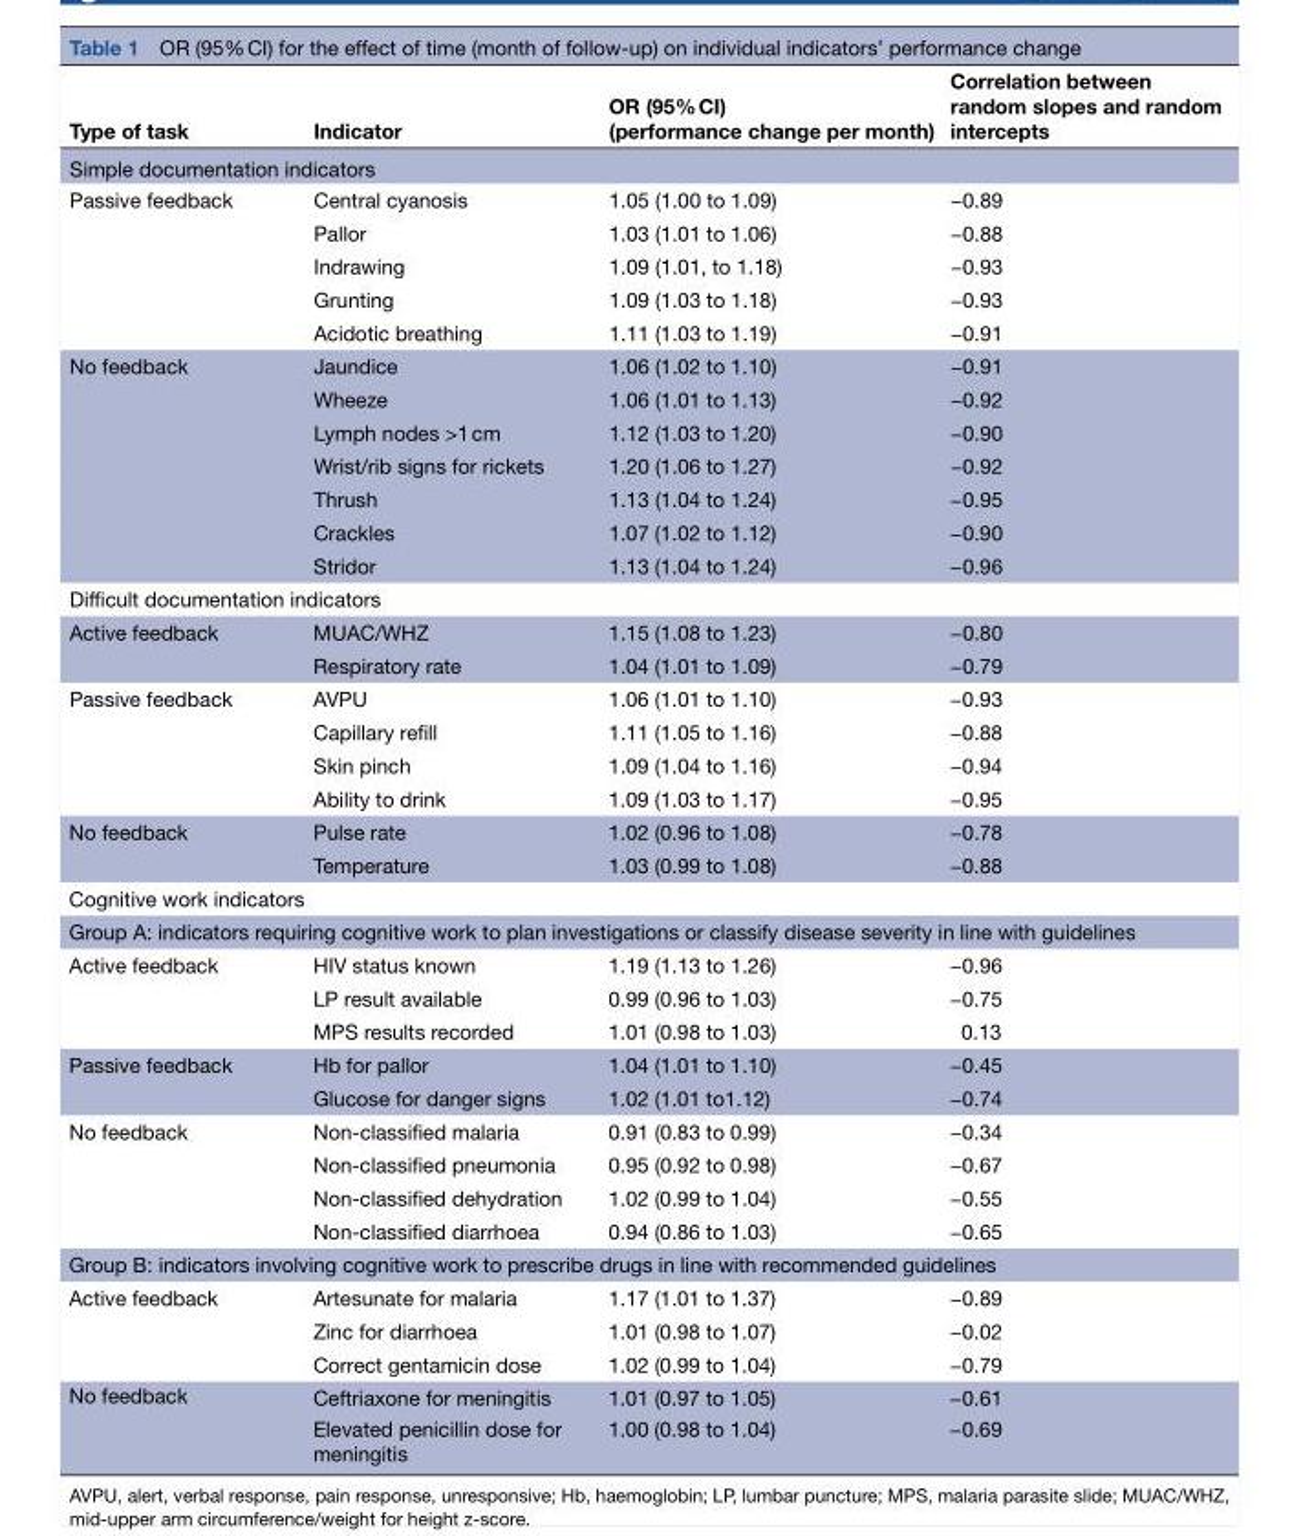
<table><thead><tr><td>Type of task</td><td>Indicator</td><td>OR (95% CI) (performance change per month)</td><td>Correlation between random slopes and random intercepts</td></tr></thead><tbody><tr><td colspan="4">Simple documentation indicators</td></tr><tr><td rowspan="5">Passive feedback</td><td>Central cyanosis</td><td>1.05 (1.00 to 1.09)</td><td>−0.89</td></tr><tr><td>Pallor</td><td>1.03 (1.01 to 1.06)</td><td>−0.88</td></tr><tr><td>Indrawing</td><td>1.09 (1.01, to 1.18)</td><td>−0.93</td></tr><tr><td>Grunting</td><td>1.09 (1.03 to 1.18)</td><td>−0.93</td></tr><tr><td>Acidotic breathing</td><td>1.11 (1.03 to 1.19)</td><td>−0.91</td></tr><tr><td rowspan="7">No feedback</td><td>Jaundice</td><td>1.06 (1.02 to 1.10)</td><td>−0.91</td></tr><tr><td>Wheeze</td><td>1.06 (1.01 to 1.13)</td><td>−0.92</td></tr><tr><td>Lymph nodes &gt;1 cm</td><td>1.12 (1.03 to 1.20)</td><td>−0.90</td></tr><tr><td>Wrist/rib signs for rickets</td><td>1.20 (1.06 to 1.27)</td><td>−0.92</td></tr><tr><td>Thrush</td><td>1.13 (1.04 to 1.24)</td><td>−0.95</td></tr><tr><td>Crackles</td><td>1.07 (1.02 to 1.12)</td><td>−0.90</td></tr><tr><td>Stridor</td><td>1.13 (1.04 to 1.24)</td><td>−0.96</td></tr><tr><td colspan="4">Difficult documentation indicators</td></tr><tr><td rowspan="2">Active feedback</td><td>MUAC/WHZ</td><td>1.15 (1.08 to 1.23)</td><td>−0.80</td></tr><tr><td>Respiratory rate</td><td>1.04 (1.01 to 1.09)</td><td>−0.79</td></tr><tr><td rowspan="4">Passive feedback</td><td>AVPU</td><td>1.06 (1.01 to 1.10)</td><td>−0.93</td></tr><tr><td>Capillary refill</td><td>1.11 (1.05 to 1.16)</td><td>−0.88</td></tr><tr><td>Skin pinch</td><td>1.09 (1.04 to 1.16)</td><td>−0.94</td></tr><tr><td>Ability to drink</td><td>1.09 (1.03 to 1.17)</td><td>−0.95</td></tr><tr><td rowspan="2">No feedback</td><td>Pulse rate</td><td>1.02 (0.96 to 1.08)</td><td>−0.78</td></tr><tr><td>Temperature</td><td>1.03 (0.99 to 1.08)</td><td>−0.88</td></tr><tr><td colspan="4">Cognitive work indicators</td></tr><tr><td colspan="4">Group A: indicators requiring cognitive work to plan investigations or classify disease severity in line with guidelines</td></tr><tr><td rowspan="3">Active feedback</td><td>HIV status known</td><td>1.19 (1.13 to 1.26)</td><td>−0.96</td></tr><tr><td>LP result available</td><td>0.99 (0.96 to 1.03)</td><td>−0.75</td></tr><tr><td>MPS results recorded</td><td>1.01 (0.98 to 1.03)</td><td>0.13</td></tr><tr><td rowspan="2">Passive feedback</td><td>Hb for pallor</td><td>1.04 (1.01 to 1.10)</td><td>−0.45</td></tr><tr><td>Glucose for danger signs</td><td>1.02 (1.01 to1.12)</td><td>−0.74</td></tr><tr><td rowspan="4">No feedback</td><td>Non-classified malaria</td><td>0.91 (0.83 to 0.99)</td><td>−0.34</td></tr><tr><td>Non-classified pneumonia</td><td>0.95 (0.92 to 0.98)</td><td>−0.67</td></tr><tr><td>Non-classified dehydration</td><td>1.02 (0.99 to 1.04)</td><td>−0.55</td></tr><tr><td>Non-classified diarrhoea</td><td>0.94 (0.86 to 1.03)</td><td>−0.65</td></tr><tr><td colspan="4">Group B: indicators involving cognitive work to prescribe drugs in line with recommended guidelines</td></tr><tr><td rowspan="3">Active feedback</td><td>Artesunate for malaria</td><td>1.17 (1.01 to 1.37)</td><td>−0.89</td></tr><tr><td>Zinc for diarrhoea</td><td>1.01 (0.98 to 1.07)</td><td>−0.02</td></tr><tr><td>Correct gentamicin dose</td><td>1.02 (0.99 to 1.04)</td><td>−0.79</td></tr><tr><td rowspan="2">No feedback</td><td>Ceftriaxone for meningitis</td><td>1.01 (0.97 to 1.05)</td><td>−0.61</td></tr><tr><td>Elevated penicillin dose for meningitis</td><td>1.00 (0.98 to 1.04)</td><td>−0.69</td></tr></tbody></table>